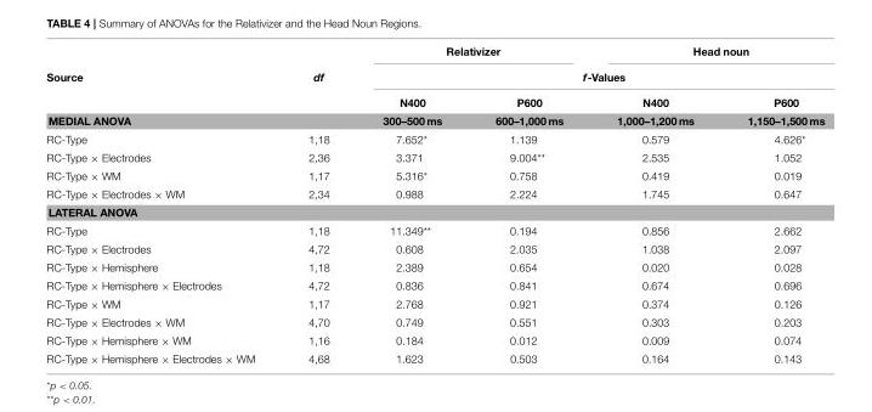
<table><thead><tr><td rowspan="3">Source</td><td rowspan="3">df</td><td colspan="2">Relativizer</td><td colspan="2">Head noun</td></tr><tr><td colspan="4">f-Values</td></tr><tr><td>N400</td><td>P600</td><td>N400</td><td>P600</td></tr></thead><tbody><tr><td>MEDIAL ANOVA</td><td></td><td>300–500 ms</td><td>600–1,000 ms</td><td>1,000–1,200 ms</td><td>1,150–1,500 ms</td></tr><tr><td>RC-Type</td><td>1,18</td><td>7.652*</td><td>1.139</td><td>0.579</td><td>4.626*</td></tr><tr><td>RC-Type × Electrodes</td><td>2,36</td><td>3.371</td><td>9.004**</td><td>2.535</td><td>1.052</td></tr><tr><td>RC-Type × WM</td><td>1,17</td><td>5.316*</td><td>0.758</td><td>0.419</td><td>0.019</td></tr><tr><td>RC-Type × Electrodes × WM</td><td>2,34</td><td>0.988</td><td>2.224</td><td>1.745</td><td>0.647</td></tr><tr><td colspan="6">LATERAL ANOVA</td></tr><tr><td>RC-Type</td><td>1,18</td><td>11.349**</td><td>0.194</td><td>0.856</td><td>2.662</td></tr><tr><td>RC-Type × Electrodes</td><td>4,72</td><td>0.608</td><td>2.035</td><td>1.038</td><td>2.097</td></tr><tr><td>RC-Type × Hemisphere</td><td>1,18</td><td>2.389</td><td>0.654</td><td>0.020</td><td>0.028</td></tr><tr><td>RC-Type × Hemisphere × Electrodes</td><td>4,72</td><td>0.836</td><td>0.841</td><td>0.674</td><td>0.696</td></tr><tr><td>RC-Type × WM</td><td>1,17</td><td>2.768</td><td>0.921</td><td>0.374</td><td>0.126</td></tr><tr><td>RC-Type × Electrodes × WM</td><td>4,70</td><td>0.749</td><td>0.551</td><td>0.303</td><td>0.203</td></tr><tr><td>RC-Type × Hemisphere × WM</td><td>1,16</td><td>0.184</td><td>0.012</td><td>0.009</td><td>0.074</td></tr><tr><td>RC-Type × Hemisphere × Electrodes × WM</td><td>4,68</td><td>1.623</td><td>0.503</td><td>0.164</td><td>0.143</td></tr></tbody></table>